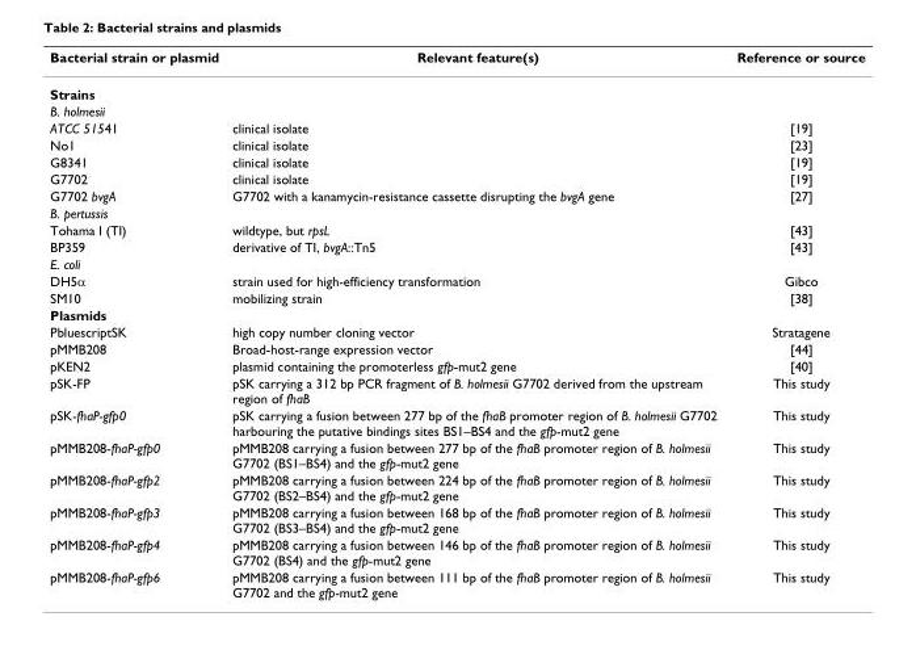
<table><thead><tr><td>Bacterial strain or plasmid</td><td>Relevant feature(s)</td><td>Reference or source</td></tr></thead><tbody><tr><td colspan="3">Strains</td></tr><tr><td colspan="3">B. holmesii</td></tr><tr><td>ATCC 51541</td><td>clinical isolate</td><td>[19]</td></tr><tr><td>No1</td><td>clinical isolate</td><td>[23]</td></tr><tr><td>G8341</td><td>clinical isolate</td><td>[19]</td></tr><tr><td>G7702</td><td>clinical isolate</td><td>[19]</td></tr><tr><td>G7702 bvgA</td><td>G7702 with a kanamycin-resistance cassette disrupting the bvgA gene</td><td>[27]</td></tr><tr><td colspan="3">B. pertussis</td></tr><tr><td>Tohama I (TI)</td><td>wildtype, but rpsL</td><td>[43]</td></tr><tr><td>BP359</td><td>derivative of TI, bvgA::Tn5</td><td>[43]</td></tr><tr><td colspan="3">E. coli</td></tr><tr><td>DH5α</td><td>strain used for high-efficiency transformation</td><td>Gibco</td></tr><tr><td>SM10</td><td>mobilizing strain</td><td>[38]</td></tr><tr><td colspan="3">Plasmids</td></tr><tr><td>PbluescriptSK</td><td>high copy number cloning vector</td><td>Stratagene</td></tr><tr><td>pMMB208</td><td>Broad-host-range expression vector</td><td>[44]</td></tr><tr><td>pKEN2</td><td>plasmid containing the promoterless gfp-mut2 gene</td><td>[40]</td></tr><tr><td>pSK-FP</td><td>pSK carrying a 312 bp PCR fragment of B. holmesii G7702 derived from the upstream region of fhaB</td><td>This study</td></tr><tr><td>pSK-fhaP-gfp0</td><td>pSK carrying a fusion between 277 bp of the fhaB promoter region of B. holmesii G7702 harbouring the putative bindings sites BS1–BS4 and the gfp-mut2 gene</td><td>This study</td></tr><tr><td>pMMB208-fhaP-gfp0</td><td>pMMB208 carrying a fusion between 277 bp of the fhaB promoter region of B. holmesii G7702 (BS1–BS4) and the gfp-mut2 gene</td><td>This study</td></tr><tr><td>pMMB208-fhaP-gfp2</td><td>pMMB208 carrying a fusion between 224 bp of the fhaB promoter region of B. holmesii G7702 (BS2–BS4) and the gfp-mut2 gene</td><td>This study</td></tr><tr><td>pMMB208-fhaP-gfp3</td><td>pMMB208 carrying a fusion between 168 bp of the fhaB promoter region of B. holmesii G7702 (BS3–BS4) and the gfp-mut2 gene</td><td>This study</td></tr><tr><td>pMMB208-fhaP-gfp4</td><td>pMMB208 carrying a fusion between 146 bp of the fhaB promoter region of B. holmesii G7702 (BS4) and the gfp-mut2 gene</td><td>This study</td></tr><tr><td>pMMB208-fhaP-gfp6</td><td>pMMB208 carrying a fusion between 111 bp of the fhaB promoter region of B. holmesii G7702 and the gfp-mut2 gene</td><td>This study</td></tr></tbody></table>